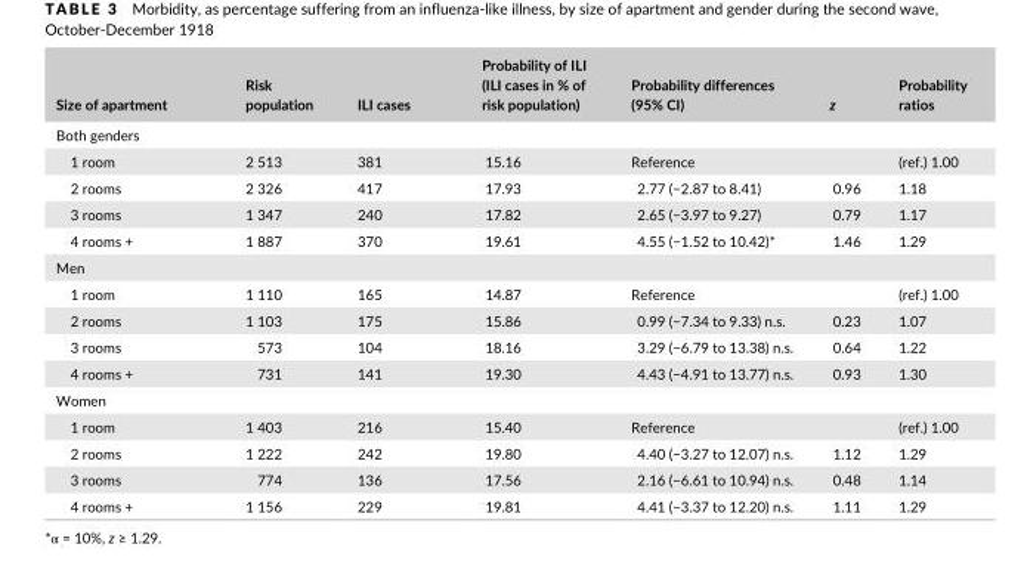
<table><thead><tr><td>Size of apartment</td><td>Risk population</td><td>ILI cases</td><td>Probability of ILI (ILI cases in % of risk population)</td><td>Probability differences (95% CI)</td><td>z</td><td>Probability ratios</td></tr></thead><tbody><tr><td colspan="7">Both genders</td></tr><tr><td>1 room</td><td>2 513</td><td>381</td><td>15.16</td><td>Reference</td><td></td><td>(ref.) 1.00</td></tr><tr><td>2 rooms</td><td>2 326</td><td>417</td><td>17.93</td><td>2.77 (−2.87 to 8.41)</td><td>0.96</td><td>1.18</td></tr><tr><td>3 rooms</td><td>1 347</td><td>240</td><td>17.82</td><td>2.65 (−3.97 to 9.27)</td><td>0.79</td><td>1.17</td></tr><tr><td>4 rooms +</td><td>1 887</td><td>370</td><td>19.61</td><td>4.55 (−1.52 to 10.42)*</td><td>1.46</td><td>1.29</td></tr><tr><td colspan="7">Men</td></tr><tr><td>1 room</td><td>1 110</td><td>165</td><td>14.87</td><td>Reference</td><td></td><td>(ref.) 1.00</td></tr><tr><td>2 rooms</td><td>1 103</td><td>175</td><td>15.86</td><td>0.99 (−7.34 to 9.33) n.s.</td><td>0.23</td><td>1.07</td></tr><tr><td>3 rooms</td><td>573</td><td>104</td><td>18.16</td><td>3.29 (−6.79 to 13.38) n.s.</td><td>0.64</td><td>1.22</td></tr><tr><td>4 rooms +</td><td>731</td><td>141</td><td>19.30</td><td>4.43 (−4.91 to 13.77) n.s.</td><td>0.93</td><td>1.30</td></tr><tr><td colspan="7">Women</td></tr><tr><td>1 room</td><td>1 403</td><td>216</td><td>15.40</td><td>Reference</td><td></td><td>(ref.) 1.00</td></tr><tr><td>2 rooms</td><td>1 222</td><td>242</td><td>19.80</td><td>4.40 (−3.27 to 12.07) n.s.</td><td>1.12</td><td>1.29</td></tr><tr><td>3 rooms</td><td>774</td><td>136</td><td>17.56</td><td>2.16 (−6.61 to 10.94) n.s.</td><td>0.48</td><td>1.14</td></tr><tr><td>4 rooms +</td><td>1 156</td><td>229</td><td>19.81</td><td>4.41 (−3.37 to 12.20) n.s.</td><td>1.11</td><td>1.29</td></tr></tbody></table>